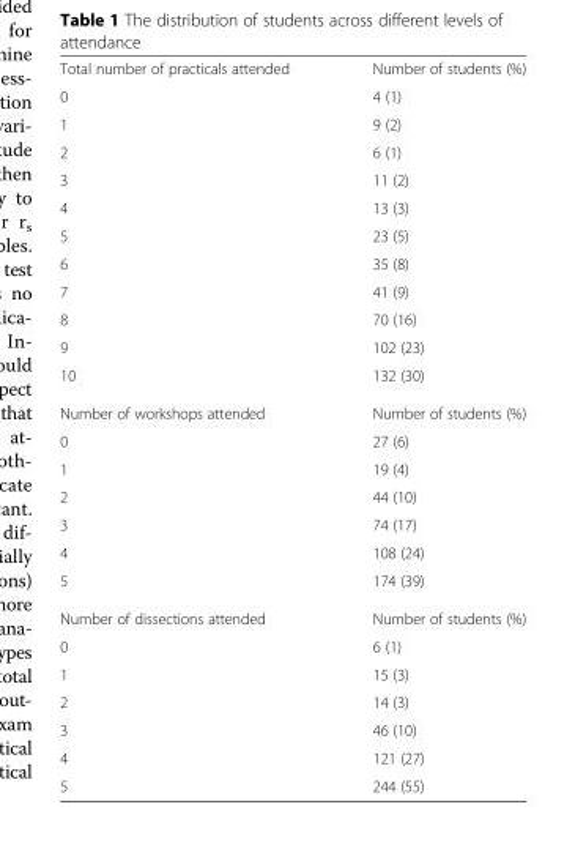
<table><tbody><tr><td>Total number of practicals attended</td><td>Number of students (%)</td></tr><tr><td>0</td><td>4 (1)</td></tr><tr><td>1</td><td>9 (2)</td></tr><tr><td>2</td><td>6 (1)</td></tr><tr><td>3</td><td>11 (2)</td></tr><tr><td>4</td><td>13 (3)</td></tr><tr><td>5</td><td>23 (5)</td></tr><tr><td>6</td><td>35 (8)</td></tr><tr><td>7</td><td>41 (9)</td></tr><tr><td>8</td><td>70 (16)</td></tr><tr><td>9</td><td>102 (23)</td></tr><tr><td>10</td><td>132 (30)</td></tr><tr><td>Number of workshops attended</td><td>Number of students (%)</td></tr><tr><td>0</td><td>27 (6)</td></tr><tr><td>1</td><td>19 (4)</td></tr><tr><td>2</td><td>44 (10)</td></tr><tr><td>3</td><td>74 (17)</td></tr><tr><td>4</td><td>108 (24)</td></tr><tr><td>5</td><td>174 (39)</td></tr><tr><td>Number of dissections attended</td><td>Number of students (%)</td></tr><tr><td>0</td><td>6 (1)</td></tr><tr><td>1</td><td>15 (3)</td></tr><tr><td>2</td><td>14 (3)</td></tr><tr><td>3</td><td>46 (10)</td></tr><tr><td>4</td><td>121 (27)</td></tr><tr><td>5</td><td>244 (55)</td></tr></tbody></table>